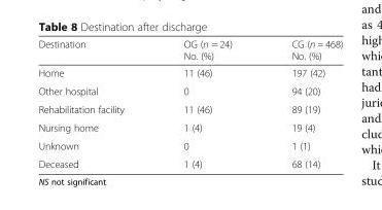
<table><thead><tr><td>Destination</td><td>OG (n = 24) No. (%)</td><td>CG (n = 468) No. (%)</td></tr></thead><tbody><tr><td>Home</td><td>11 (46)</td><td>197 (42)</td></tr><tr><td>Other hospital</td><td>0</td><td>94 (20)</td></tr><tr><td>Rehabilitation facility</td><td>11 (46)</td><td>89 (19)</td></tr><tr><td>Nursing home</td><td>1 (4)</td><td>19 (4)</td></tr><tr><td>Unknown</td><td>0</td><td>1 (1)</td></tr><tr><td>Deceased</td><td>1 (4)</td><td>68 (14)</td></tr></tbody></table>